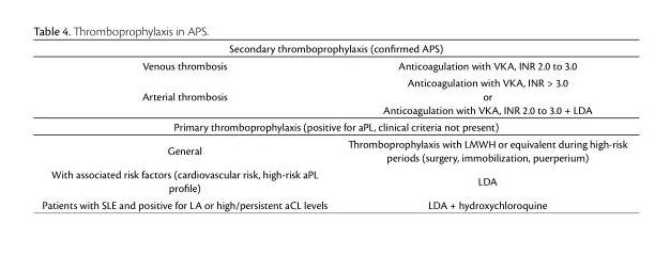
<table><thead><tr><td colspan="2">Secondary thromboprophylaxis (confirmed APS)</td></tr><tr><td>Venous thrombosis</td><td>Anticoagulation with VKA, INR 2.0 to 3.0</td></tr></thead><tbody><tr><td>Arterial thrombosis</td><td>Anticoagulation with VKA, INR &gt; 3.0 or Anticoagulation with VKA, INR 2.0 to 3.0 + LDA</td></tr><tr><td colspan="2">Primary thromboprophylaxis (positive for aPL, clinical criteria not present)</td></tr><tr><td>General</td><td>Thromboprophylaxis with LMWH or equivalent during high-risk periods (surgery, immobilization, puerperium)</td></tr><tr><td>With associated risk factors (cardiovascular risk, high-risk aPL profile)</td><td>LDA</td></tr><tr><td>Patients with SLE and positive for LA or high/persistent aCL levels</td><td>LDA + hydroxychloroquine</td></tr></tbody></table>